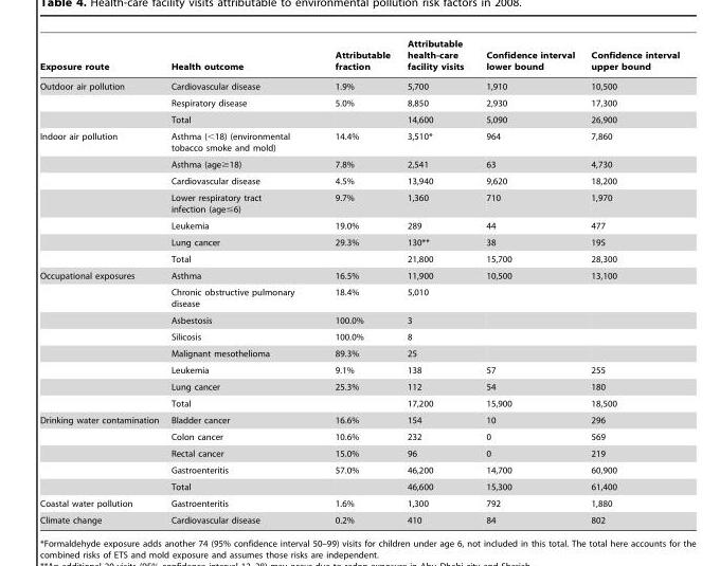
<table><thead><tr><td>Exposure route</td><td>Health outcome</td><td>Attributable fraction</td><td>Attributable health-care facility visits</td><td>Confidence interval lower bound</td><td>Confidence interval upper bound</td></tr></thead><tbody><tr><td rowspan="3">Outdoor air pollution</td><td>Cardiovascular disease</td><td>1.9%</td><td>5,700</td><td>1,910</td><td>10,500</td></tr><tr><td>Respiratory disease</td><td>5.0%</td><td>8,850</td><td>2,930</td><td>17,300</td></tr><tr><td>Total</td><td></td><td>14,600</td><td>5,090</td><td>26,900</td></tr><tr><td rowspan="7">Indoor air pollution</td><td>Asthma (&lt;18) (environmental tobacco smoke and mold)</td><td>14.4%</td><td>3,510*</td><td>964</td><td>7,860</td></tr><tr><td>Asthma (age≥18)</td><td>7.8%</td><td>2,541</td><td>63</td><td>4,730</td></tr><tr><td>Cardiovascular disease</td><td>4.5%</td><td>13,940</td><td>9,620</td><td>18,200</td></tr><tr><td>Lower respiratory tract infection (age≤6)</td><td>9.7%</td><td>1,360</td><td>710</td><td>1,970</td></tr><tr><td>Leukemia</td><td>19.0%</td><td>289</td><td>44</td><td>477</td></tr><tr><td>Lung cancer</td><td>29.3%</td><td>130**</td><td>38</td><td>195</td></tr><tr><td>Total</td><td></td><td>21,800</td><td>15,700</td><td>28,300</td></tr><tr><td rowspan="8">Occupational exposures</td><td>Asthma</td><td>16.5%</td><td>11,900</td><td>10,500</td><td>13,100</td></tr><tr><td>Chronic obstructive pulmonary disease</td><td>18.4%</td><td>5,010</td><td></td><td></td></tr><tr><td>Asbestosis</td><td>100.0%</td><td>3</td><td></td><td></td></tr><tr><td>Silicosis</td><td>100.0%</td><td>8</td><td></td><td></td></tr><tr><td>Malignant mesothelioma</td><td>89.3%</td><td>25</td><td></td><td></td></tr><tr><td>Leukemia</td><td>9.1%</td><td>138</td><td>57</td><td>255</td></tr><tr><td>Lung cancer</td><td>25.3%</td><td>112</td><td>54</td><td>180</td></tr><tr><td>Total</td><td></td><td>17,200</td><td>15,900</td><td>18,500</td></tr><tr><td rowspan="5">Drinking water contamination</td><td>Bladder cancer</td><td>16.6%</td><td>154</td><td>10</td><td>296</td></tr><tr><td>Colon cancer</td><td>10.6%</td><td>232</td><td>0</td><td>569</td></tr><tr><td>Rectal cancer</td><td>15.0%</td><td>96</td><td>0</td><td>219</td></tr><tr><td>Gastroenteritis</td><td>57.0%</td><td>46,200</td><td>14,700</td><td>60,900</td></tr><tr><td>Total</td><td></td><td>46,600</td><td>15,300</td><td>61,400</td></tr><tr><td>Coastal water pollution</td><td>Gastroenteritis</td><td>1.6%</td><td>1,300</td><td>792</td><td>1,880</td></tr><tr><td>Climate change</td><td>Cardiovascular disease</td><td>0.2%</td><td>410</td><td>84</td><td>802</td></tr></tbody></table>